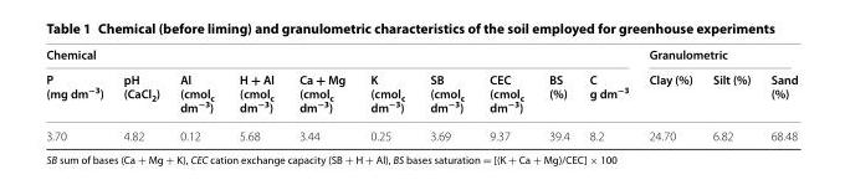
<table><thead><tr><td colspan="10">Chemical</td><td colspan="3">Granulometric</td></tr><tr><td>P (mg dm<sup>−3</sup>)</td><td>pH (CaCl<sub>2</sub>)</td><td>Al (cmol<sub>c</sub> dm<sup>−3</sup>)</td><td>H + Al (cmol<sub>c</sub> dm<sup>−3</sup>)</td><td>Ca + Mg (cmol<sub>c</sub> dm<sup>−3</sup>)</td><td>K (cmol<sub>c</sub> dm<sup>−3</sup>)</td><td>SB (cmol<sub>c</sub> dm<sup>−3</sup>)</td><td>CEC (cmol<sub>c</sub> dm<sup>−3</sup>)</td><td>BS (%)</td><td>C g dm<sup>−3</sup></td><td>Clay (%)</td><td>Silt (%)</td><td>Sand (%)</td></tr></thead><tbody><tr><td>3.70</td><td>4.82</td><td>0.12</td><td>5.68</td><td>3.44</td><td>0.25</td><td>3.69</td><td>9.37</td><td>39.4</td><td>8.2</td><td>24.70</td><td>6.82</td><td>68.48</td></tr></tbody></table>